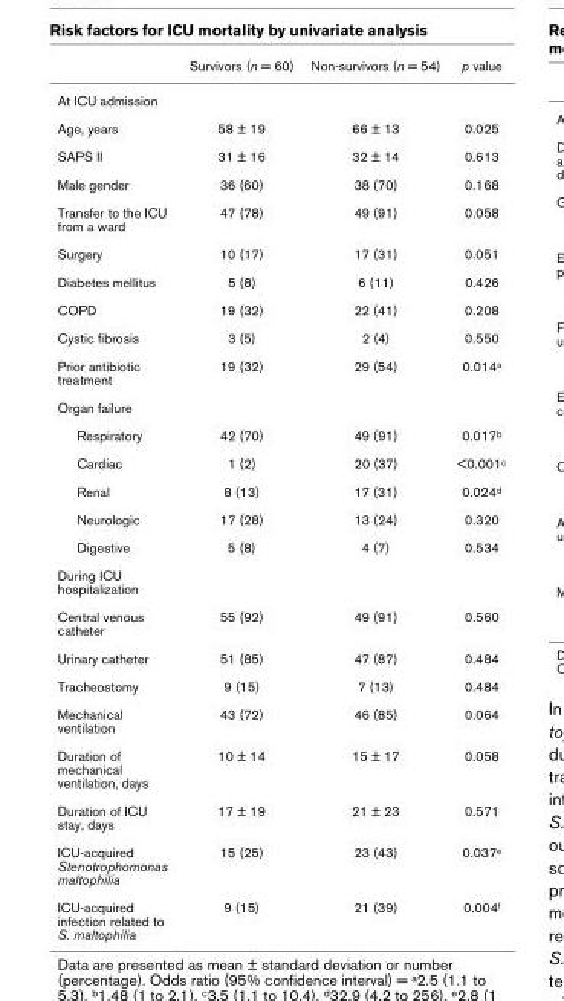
<table><thead><tr><td></td><td>Survivors (n = 60)</td><td>Non-survivors (n = 54)</td><td>p value</td></tr></thead><tbody><tr><td colspan="4">At ICU admission</td></tr><tr><td>Age, years</td><td>58 ± 19</td><td>66 ± 13</td><td>0.025</td></tr><tr><td>SAPS II</td><td>31 ± 16</td><td>32 ± 14</td><td>0.613</td></tr><tr><td>Male gender</td><td>36 (60)</td><td>38 (70)</td><td>0.168</td></tr><tr><td>Transfer to the ICU from a ward</td><td>47 (78)</td><td>49 (91)</td><td>0.058</td></tr><tr><td>Surgery</td><td>10 (17)</td><td>17 (31)</td><td>0.051</td></tr><tr><td>Diabetes mellitus</td><td>5 (8)</td><td>6 (11)</td><td>0.426</td></tr><tr><td>COPD</td><td>19 (32)</td><td>22 (41)</td><td>0.208</td></tr><tr><td>Cystic fibrosis</td><td>3 (5)</td><td>2 (4)</td><td>0.550</td></tr><tr><td>Prior antibiotic treatment</td><td>19 (32)</td><td>29 (54)</td><td>0.014a</td></tr><tr><td colspan="4">Organ failure</td></tr><tr><td>Respiratory</td><td>42 (70)</td><td>49 (91)</td><td>0.017b</td></tr><tr><td>Cardiac</td><td>1 (2)</td><td>20 (37)</td><td>&lt;0.001c</td></tr><tr><td>Renal</td><td>8 (13)</td><td>17 (31)</td><td>0.024d</td></tr><tr><td>Neurologic</td><td>17 (28)</td><td>13 (24)</td><td>0.320</td></tr><tr><td>Digestive</td><td>5 (8)</td><td>4 (7)</td><td>0.534</td></tr><tr><td colspan="4">During ICU hospitalization</td></tr><tr><td>Central venous catheter</td><td>55 (92)</td><td>49 (91)</td><td>0.560</td></tr><tr><td>Urinary catheter</td><td>51 (85)</td><td>47 (87)</td><td>0.484</td></tr><tr><td>Tracheostomy</td><td>9 (15)</td><td>7 (13)</td><td>0.484</td></tr><tr><td>Mechanical ventilation</td><td>43 (72)</td><td>46 (85)</td><td>0.064</td></tr><tr><td>Duration of mechanical ventilation, days</td><td>10 ± 14</td><td>15 ± 17</td><td>0.058</td></tr><tr><td>Duration of ICU stay, days</td><td>17 ± 19</td><td>21 ± 23</td><td>0.571</td></tr><tr><td>ICU-acquired Stenotrophomonas maltophilia</td><td>15 (25)</td><td>23 (43)</td><td>0.037e</td></tr><tr><td>ICU-acquired infection related to S. maltophilia</td><td>9 (15)</td><td>21 (39)</td><td>0.004f</td></tr></tbody></table>